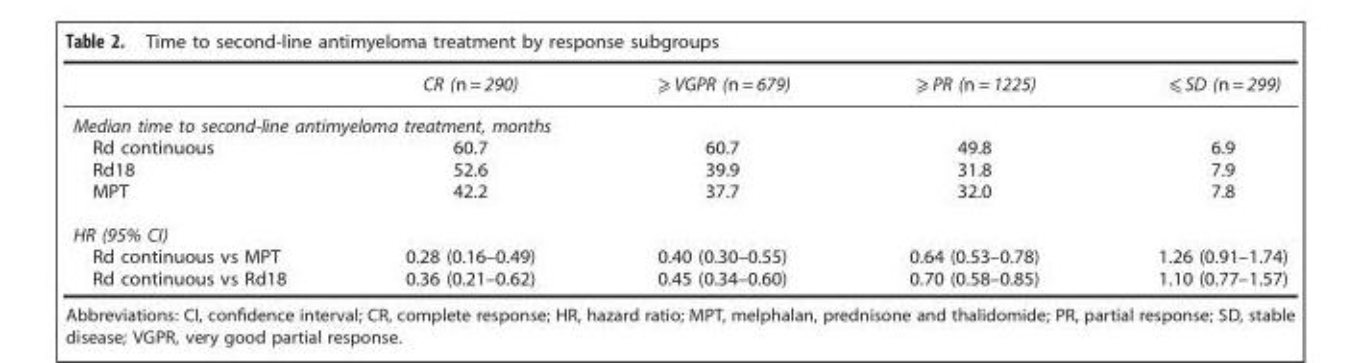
<table><thead><tr><td></td><td>CR (n = 290)</td><td>⩾ VGPR (n = 679)</td><td>⩾ PR (n = 1225)</td><td>⩽ SD (n = 299)</td></tr></thead><tbody><tr><td colspan="5">Median time to second-line antimyeloma treatment, months</td></tr><tr><td>Rd continuous</td><td>60.7</td><td>60.7</td><td>49.8</td><td>6.9</td></tr><tr><td>Rd18</td><td>52.6</td><td>39.9</td><td>31.8</td><td>7.9</td></tr><tr><td>MPT</td><td>42.2</td><td>37.7</td><td>32.0</td><td>7.8</td></tr><tr><td colspan="5">HR (95% CI)</td></tr><tr><td>Rd continuous vs MPT</td><td>0.28 (0.16–0.49)</td><td>0.40 (0.30–0.55)</td><td>0.64 (0.53–0.78)</td><td>1.26 (0.91–1.74)</td></tr><tr><td>Rd continuous vs Rd18</td><td>0.36 (0.21–0.62)</td><td>0.45 (0.34–0.60)</td><td>0.70 (0.58–0.85)</td><td>1.10 (0.77–1.57)</td></tr></tbody></table>